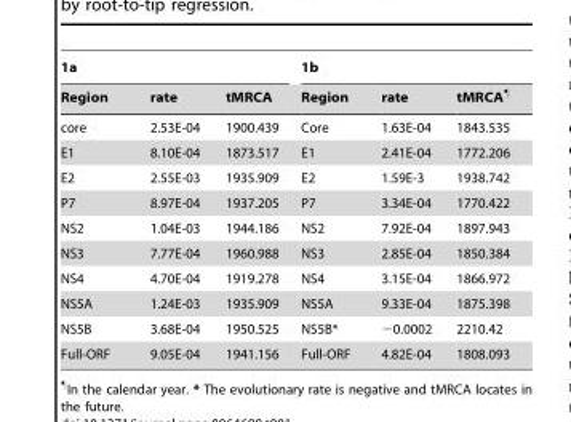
<table><thead><tr><td colspan="3">1a</td><td colspan="3">1b</td></tr><tr><td>Region</td><td>rate</td><td>tMRCA</td><td>Region</td><td>rate</td><td>tMRCA¶</td></tr></thead><tbody><tr><td>core</td><td>2.53E-04</td><td>1900.439</td><td>Core</td><td>1.63E-04</td><td>1843.535</td></tr><tr><td>E1</td><td>8.10E-04</td><td>1873.517</td><td>E1</td><td>2.41E-04</td><td>1772.206</td></tr><tr><td>E2</td><td>2.55E-03</td><td>1935.909</td><td>E2</td><td>1.59E-3</td><td>1938.742</td></tr><tr><td>P7</td><td>8.97E-04</td><td>1937.205</td><td>P7</td><td>3.34E-04</td><td>1770.422</td></tr><tr><td>NS2</td><td>1.04E-03</td><td>1944.186</td><td>NS2</td><td>7.92E-04</td><td>1897.943</td></tr><tr><td>NS3</td><td>7.77E-04</td><td>1960.988</td><td>NS3</td><td>2.85E-04</td><td>1850.384</td></tr><tr><td>NS4</td><td>4.70E-04</td><td>1919.278</td><td>NS4</td><td>3.15E-04</td><td>1866.972</td></tr><tr><td>NS5A</td><td>1.24E-03</td><td>1935.909</td><td>NS5A</td><td>9.33E-04</td><td>1875.398</td></tr><tr><td>NS5B</td><td>3.68E-04</td><td>1950.525</td><td>NS5B*</td><td>−0.0002</td><td>2210.42</td></tr><tr><td>Full-ORF</td><td>9.05E-04</td><td>1941.156</td><td>Full-ORF</td><td>4.82E-04</td><td>1808.093</td></tr></tbody></table>